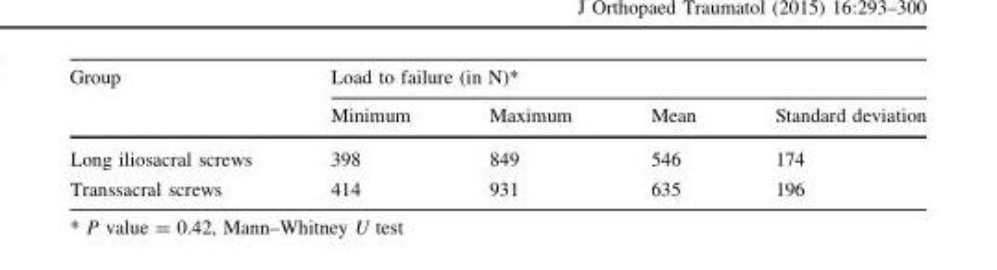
<table><thead><tr><td rowspan="2">Group</td><td colspan="4">Load to failure (in N)*</td></tr><tr><td>Minimum</td><td>Maximum</td><td>Mean</td><td>Standard deviation</td></tr></thead><tbody><tr><td>Long iliosacral screws</td><td>398</td><td>849</td><td>546</td><td>174</td></tr><tr><td>Transsacral screws</td><td>414</td><td>931</td><td>635</td><td>196</td></tr></tbody></table>